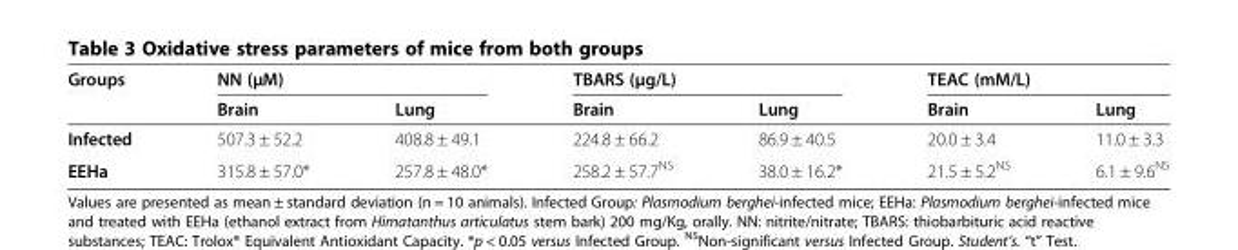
<table><thead><tr><td rowspan="2">Groups</td><td colspan="2">NN (μM)</td><td colspan="2">TBARS (μg/L)</td><td colspan="2">TEAC (mM/L)</td></tr><tr><td>Brain</td><td>Lung</td><td>Brain</td><td>Lung</td><td>Brain</td><td>Lung</td></tr></thead><tbody><tr><td>Infected</td><td>507.3 ± 52.2</td><td>408.8 ± 49.1</td><td>224.8 ± 66.2</td><td>86.9 ± 40.5</td><td>20.0 ± 3.4</td><td>11.0 ± 3.3</td></tr><tr><td>EEHa</td><td>315.8 ± 57.0*</td><td>257.8 ± 48.0*</td><td>258.2 ± 57.7<sup>NS</sup></td><td>38.0 ± 16.2*</td><td>21.5 ± 5.2<sup>NS</sup></td><td>6.1 ± 9.6<sup>NS</sup></td></tr></tbody></table>